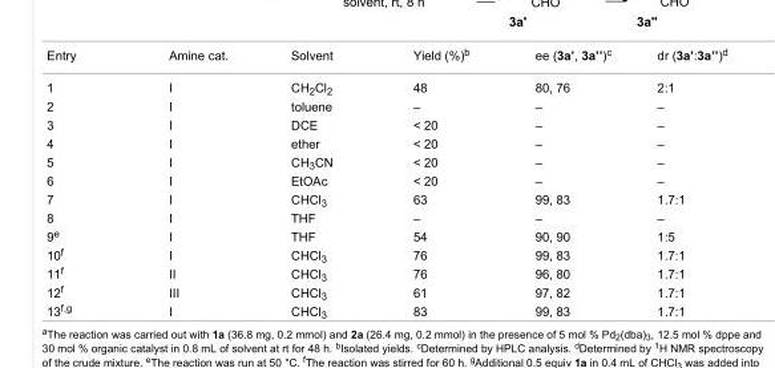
<table><tbody><tr><td>Entry</td><td>Amine cat.</td><td>Solvent</td><td>Yield (%)<sup>b</sup></td><td>ee (3a’, 3a’’)<sup>c</sup></td><td>dr (3a’:3a’’)<sup>d</sup></td></tr><tr><td>1</td><td>I</td><td>CH<sub>2</sub>Cl<sub>2</sub></td><td>48</td><td>80, 76</td><td>2:1</td></tr><tr><td>2</td><td>I</td><td>toluene</td><td>–</td><td>–</td><td>–</td></tr><tr><td>3</td><td>I</td><td>DCE</td><td>&lt; 20</td><td>–</td><td>–</td></tr><tr><td>4</td><td>I</td><td>ether</td><td>&lt; 20</td><td>–</td><td>–</td></tr><tr><td>5</td><td>I</td><td>CH<sub>3</sub>CN</td><td>&lt; 20</td><td>–</td><td>–</td></tr><tr><td>6</td><td>I</td><td>EtOAc</td><td>&lt; 20</td><td>–</td><td>–</td></tr><tr><td>7</td><td>I</td><td>CHCl<sub>3</sub></td><td>63</td><td>99, 83</td><td>1.7:1</td></tr><tr><td>8</td><td>I</td><td>THF</td><td>–</td><td>–</td><td>–</td></tr><tr><td>9<sup>e</sup></td><td>I</td><td>THF</td><td>54</td><td>90, 90</td><td>1:5</td></tr><tr><td>10<sup>f</sup></td><td>I</td><td>CHCl<sub>3</sub></td><td>76</td><td>99, 83</td><td>1.7:1</td></tr><tr><td>11<sup>f</sup></td><td>II</td><td>CHCl<sub>3</sub></td><td>76</td><td>96, 80</td><td>1.7:1</td></tr><tr><td>12<sup>f</sup></td><td>III</td><td>CHCl<sub>3</sub></td><td>61</td><td>97, 82</td><td>1.7:1</td></tr><tr><td>13<sup>f,g</sup></td><td>I</td><td>CHCl<sub>3</sub></td><td>83</td><td>99, 83</td><td>1.7:1</td></tr></tbody></table>